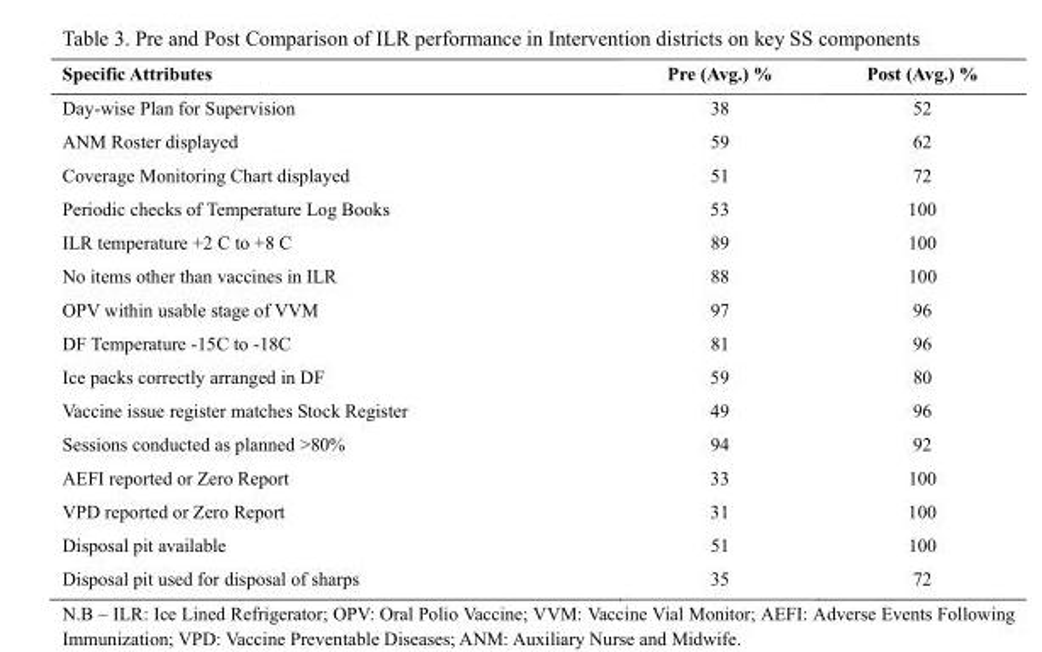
<table><thead><tr><td>Specific Attributes</td><td>Pre (Avg.) %</td><td>Post (Avg.) %</td></tr></thead><tbody><tr><td>Day-wise Plan for Supervision</td><td>38</td><td>52</td></tr><tr><td>ANM Roster displayed</td><td>59</td><td>62</td></tr><tr><td>Coverage Monitoring Chart displayed</td><td>51</td><td>72</td></tr><tr><td>Periodic checks of Temperature Log Books</td><td>53</td><td>100</td></tr><tr><td>ILR temperature +2 C to +8 C</td><td>89</td><td>100</td></tr><tr><td>No items other than vaccines in ILR</td><td>88</td><td>100</td></tr><tr><td>OPV within usable stage of VVM</td><td>97</td><td>96</td></tr><tr><td>DF Temperature -15C to -18C</td><td>81</td><td>96</td></tr><tr><td>Ice packs correctly arranged in DF</td><td>59</td><td>80</td></tr><tr><td>Vaccine issue register matches Stock Register</td><td>49</td><td>96</td></tr><tr><td>Sessions conducted as planned &gt;80%</td><td>94</td><td>92</td></tr><tr><td>AEFI reported or Zero Report</td><td>33</td><td>100</td></tr><tr><td>VPD reported or Zero Report</td><td>31</td><td>100</td></tr><tr><td>Disposal pit available</td><td>51</td><td>100</td></tr><tr><td>Disposal pit used for disposal of sharps</td><td>35</td><td>72</td></tr></tbody></table>